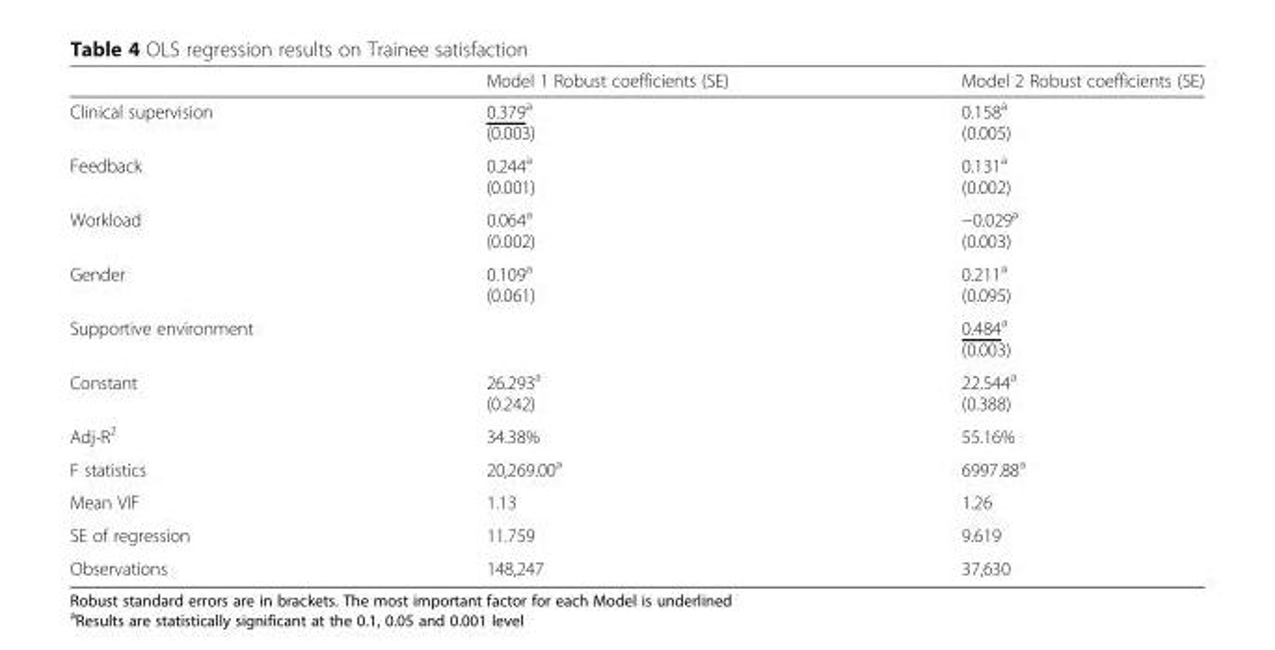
<table><thead><tr><td></td><td>Model 1 Robust coefficients (SE)</td><td>Model 2 Robust coefficients (SE)</td></tr></thead><tbody><tr><td>Clinical supervision</td><td>0.379<sup>a</sup> (0.003)</td><td>0.158<sup>a</sup> (0.005)</td></tr><tr><td>Feedback</td><td>0.244<sup>a</sup> (0.001)</td><td>0.131<sup>a</sup> (0.002)</td></tr><tr><td>Workload</td><td>0.064<sup>a</sup> (0.002)</td><td>−0.029<sup>a</sup> (0.003)</td></tr><tr><td>Gender</td><td>0.109<sup>a</sup> (0.061)</td><td>0.211<sup>a</sup> (0.095)</td></tr><tr><td>Supportive environment</td><td></td><td>0.484<sup>a</sup> (0.003)</td></tr><tr><td>Constant</td><td>26.293<sup>a</sup> (0.242)</td><td>22.544<sup>a</sup> (0.388)</td></tr><tr><td>Adj-R<sup>2</sup></td><td>34.38%</td><td>55.16%</td></tr><tr><td>F statistics</td><td>20,269.00<sup>a</sup></td><td>6997.88<sup>a</sup></td></tr><tr><td>Mean VIF</td><td>1.13</td><td>1.26</td></tr><tr><td>SE of regression</td><td>11.759</td><td>9.619</td></tr><tr><td>Observations</td><td>148,247</td><td>37,630</td></tr></tbody></table>